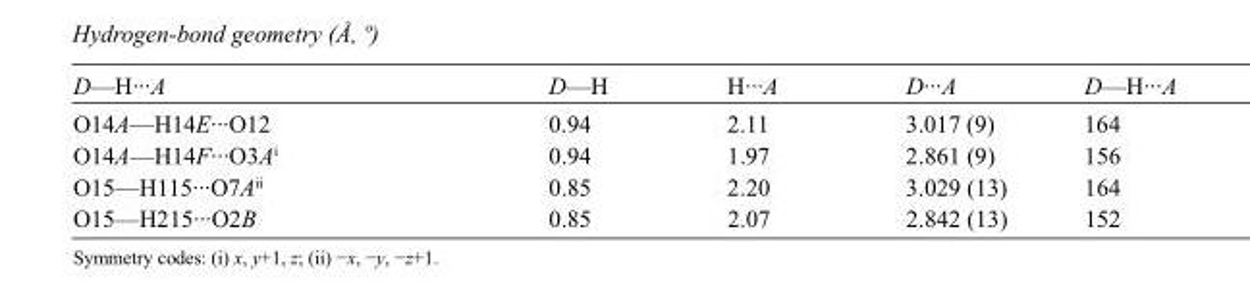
<table><tbody><tr><td>D—H···A</td><td>D—H</td><td>H···A</td><td>D···A</td><td>D—H···A</td></tr><tr><td>O14A—H14E···O12</td><td>0.94</td><td>2.11</td><td>3.017 (9)</td><td>164</td></tr><tr><td>O14A—H14F···O3A<sup>i</sup></td><td>0.94</td><td>1.97</td><td>2.861 (9)</td><td>156</td></tr><tr><td>O15—H115···O7A<sup>ii</sup></td><td>0.85</td><td>2.20</td><td>3.029 (13)</td><td>164</td></tr><tr><td>O15—H215···O2B</td><td>0.85</td><td>2.07</td><td>2.842 (13)</td><td>152</td></tr></tbody></table>